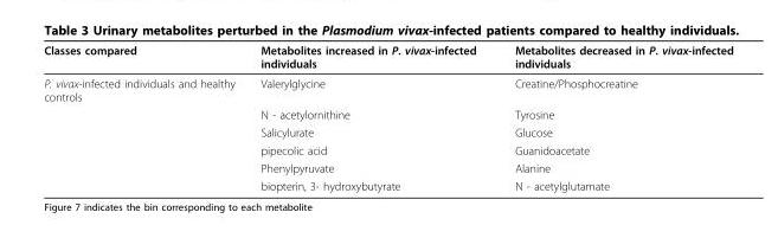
<table><thead><tr><td>Classes compared</td><td>Metabolites increased in P. vivax-infected individuals</td><td>Metabolites decreased in P. vivax-infected individuals</td></tr></thead><tbody><tr><td rowspan="6">P. vivax-infected individuals and healthy controls</td><td>Valerylglycine</td><td>Creatine/Phosphocreatine</td></tr><tr><td>N - acetylornithine</td><td>Tyrosine</td></tr><tr><td>Salicylurate</td><td>Glucose</td></tr><tr><td>pipecolic acid</td><td>Guanidoacetate</td></tr><tr><td>Phenylpyruvate</td><td>Alanine</td></tr><tr><td>biopterin, 3- hydroxybutyrate</td><td>N - acetylglutamate</td></tr></tbody></table>